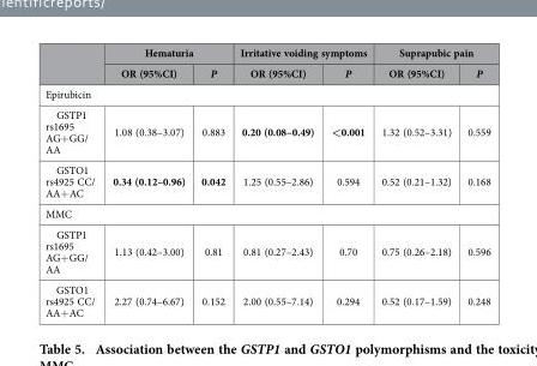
<table><thead><tr><td rowspan="2"></td><td colspan="2">Hematuria</td><td colspan="2">Irritative voiding symptoms</td><td colspan="2">Suprapubic pain</td></tr><tr><td>OR (95%CI)</td><td>P</td><td>OR (95%CI)</td><td>P</td><td>OR (95%CI)</td><td>P</td></tr></thead><tbody><tr><td colspan="7">Epirubicin</td></tr><tr><td>GSTP1 rs1695 AG+ GG/ AA</td><td>1.08 (0.38–3.07)</td><td>0.883</td><td>0.20 (0.08–0.49)</td><td>&lt;0.001</td><td>1.32 (0.52–3.31)</td><td>0.559</td></tr><tr><td>GSTO1 rs4925 CC/ AA+ AC</td><td>0.34 (0.12–0.96)</td><td>0.042</td><td>1.25 (0.55–2.86)</td><td>0.594</td><td>0.52 (0.21–1.32)</td><td>0.168</td></tr><tr><td colspan="7">MMC</td></tr><tr><td>GSTP1 rs1695 AG+ GG/ AA</td><td>1.13 (0.42–3.00)</td><td>0.81</td><td>0.81 (0.27–2.43)</td><td>0.70</td><td>0.75 (0.26–2.18)</td><td>0.596</td></tr><tr><td>GSTO1 rs4925 CC/ AA+ AC</td><td>2.27 (0.74–6.67)</td><td>0.152</td><td>2.00 (0.55–7.14)</td><td>0.294</td><td>0.52 (0.17–1.59)</td><td>0.248</td></tr></tbody></table>